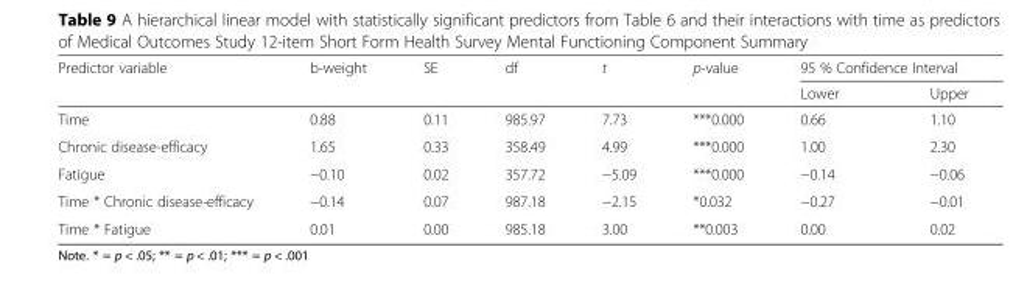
<table><thead><tr><td rowspan="2">Predictor variable</td><td rowspan="2">b-weight</td><td rowspan="2">SE</td><td rowspan="2">df</td><td rowspan="2">t</td><td rowspan="2">p-value</td><td colspan="2">95 % Confidence Interval</td></tr><tr><td>Lower</td><td>Upper</td></tr></thead><tbody><tr><td>Time</td><td>0.88</td><td>0.11</td><td>985.97</td><td>7.73</td><td>***0.000</td><td>0.66</td><td>1.10</td></tr><tr><td>Chronic disease-efficacy</td><td>1.65</td><td>0.33</td><td>358.49</td><td>4.99</td><td>***0.000</td><td>1.00</td><td>2.30</td></tr><tr><td>Fatigue</td><td>−0.10</td><td>0.02</td><td>357.72</td><td>−5.09</td><td>***0.000</td><td>−0.14</td><td>−0.06</td></tr><tr><td>Time * Chronic disease-efficacy</td><td>−0.14</td><td>0.07</td><td>987.18</td><td>−2.15</td><td>*0.032</td><td>−0.27</td><td>−0.01</td></tr><tr><td>Time * Fatigue</td><td>0.01</td><td>0.00</td><td>985.18</td><td>3.00</td><td>**0.003</td><td>0.00</td><td>0.02</td></tr></tbody></table>